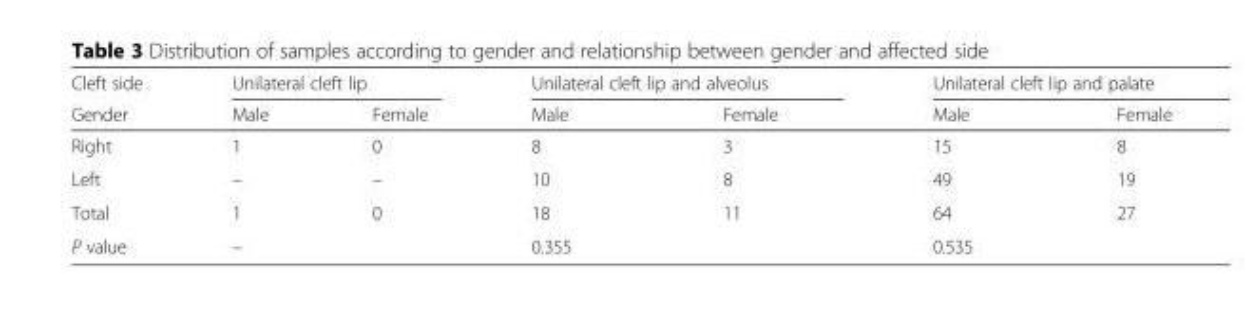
<table><thead><tr><td rowspan="2">Cleft side Gender</td><td colspan="2">Unilateral cleft lip</td><td colspan="2">Unilateral cleft lip and alveolus</td><td colspan="2">Unilateral cleft lip and palate</td></tr><tr><td>Male</td><td>Female</td><td>Male</td><td>Female</td><td>Male</td><td>Female</td></tr></thead><tbody><tr><td>Right</td><td>1</td><td>0</td><td>8</td><td>3</td><td>15</td><td>8</td></tr><tr><td>Left</td><td>–</td><td>–</td><td>10</td><td>8</td><td>49</td><td>19</td></tr><tr><td>Total</td><td>1</td><td>0</td><td>18</td><td>11</td><td>64</td><td>27</td></tr><tr><td>P value</td><td colspan="2">–</td><td colspan="2">0.355</td><td colspan="2">0.535</td></tr></tbody></table>